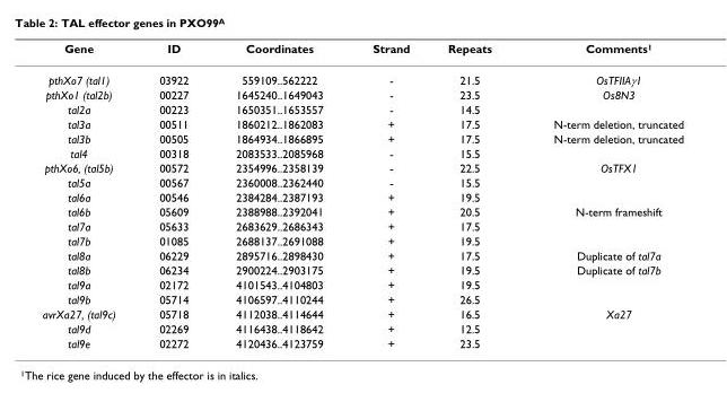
<table><thead><tr><td>Gene</td><td>ID</td><td>Coordinates</td><td>Strand</td><td>Repeats</td><td>Comments<sup>1</sup></td></tr></thead><tbody><tr><td>pthXo7 (tal1)</td><td>03922</td><td>559109..562222</td><td>-</td><td>21.5</td><td>OsTFIIAγ1</td></tr><tr><td>pthXo1 (tal2b)</td><td>00227</td><td>1645240..1649043</td><td>-</td><td>23.5</td><td>Os8N3</td></tr><tr><td>tal2a</td><td>00223</td><td>1650351..1653557</td><td>-</td><td>14.5</td><td></td></tr><tr><td>tal3a</td><td>00511</td><td>1860212..1862083</td><td>+</td><td>17.5</td><td>N-term deletion, truncated</td></tr><tr><td>tal3b</td><td>00505</td><td>1864934..1866895</td><td>+</td><td>17.5</td><td>N-term deletion, truncated</td></tr><tr><td>tal4</td><td>00318</td><td>2083533..2085968</td><td>-</td><td>15.5</td><td></td></tr><tr><td>pthXo6, (tal5b)</td><td>00572</td><td>2354996..2358139</td><td>-</td><td>22.5</td><td>OsTFX1</td></tr><tr><td>tal5a</td><td>00567</td><td>2360008..2362440</td><td>-</td><td>15.5</td><td></td></tr><tr><td>tal6a</td><td>00546</td><td>2384284..2387193</td><td>+</td><td>19.5</td><td></td></tr><tr><td>tal6b</td><td>05609</td><td>2388988..2392041</td><td>+</td><td>20.5</td><td>N-term frameshift</td></tr><tr><td>tal7a</td><td>05633</td><td>2683629..2686343</td><td>+</td><td>17.5</td><td></td></tr><tr><td>tal7b</td><td>01085</td><td>2688137..2691088</td><td>+</td><td>19.5</td><td></td></tr><tr><td>tal8a</td><td>06229</td><td>2895716..2898430</td><td>+</td><td>17.5</td><td>Duplicate of tal7a</td></tr><tr><td>tal8b</td><td>06234</td><td>2900224..2903175</td><td>+</td><td>19.5</td><td>Duplicate of tal7b</td></tr><tr><td>tal9a</td><td>02172</td><td>4101543..4104803</td><td>+</td><td>19.5</td><td></td></tr><tr><td>tal9b</td><td>05714</td><td>4106597..4110244</td><td>+</td><td>26.5</td><td></td></tr><tr><td>avrXa27, (tal9c)</td><td>05718</td><td>4112038..4114644</td><td>+</td><td>16.5</td><td>Xa27</td></tr><tr><td>tal9d</td><td>02269</td><td>4116438..4118642</td><td>+</td><td>12.5</td><td></td></tr><tr><td>tal9e</td><td>02272</td><td>4120436..4123759</td><td>+</td><td>23.5</td><td></td></tr></tbody></table>